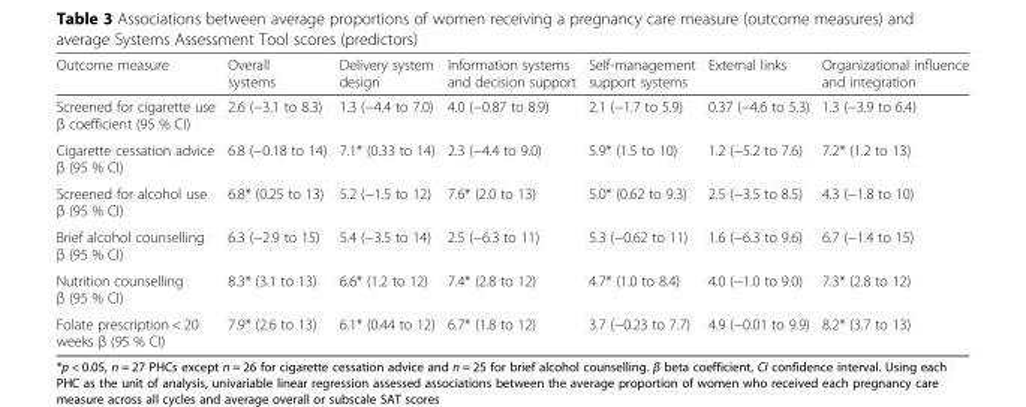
<table><thead><tr><td>Outcome measure</td><td>Overall systems</td><td>Delivery system design</td><td>Information systems and decision support</td><td>Self-management support systems</td><td>External links</td><td>Organizational influence and integration</td></tr></thead><tbody><tr><td>Screened for cigarette use β coefficient (95 % CI)</td><td>2.6 (−3.1 to 8.3)</td><td>1.3 (−4.4 to 7.0)</td><td>4.0 (−0.87 to 8.9)</td><td>2.1 (−1.7 to 5.9)</td><td>0.37 (−4.6 to 5.3)</td><td>1.3 (−3.9 to 6.4)</td></tr><tr><td>Cigarette cessation advice β (95 % CI)</td><td>6.8 (−0.18 to 14)</td><td>7.1* (0.33 to 14)</td><td>2.3 (−4.4 to 9.0)</td><td>5.9* (1.5 to 10)</td><td>1.2 (−5.2 to 7.6)</td><td>7.2* (1.2 to 13)</td></tr><tr><td>Screened for alcohol use β (95 % CI)</td><td>6.8* (0.25 to 13)</td><td>5.2 (−1.5 to 12)</td><td>7.6* (2.0 to 13)</td><td>5.0* (0.62 to 9.3)</td><td>2.5 (−3.5 to 8.5)</td><td>4.3 (−1.8 to 10)</td></tr><tr><td>Brief alcohol counselling β (95 % CI)</td><td>6.3 (−2.9 to 15)</td><td>5.4 (−3.5 to 14)</td><td>2.5 (−6.3 to 11)</td><td>5.3 (−0.62 to 11)</td><td>1.6 (−6.3 to 9.6)</td><td>6.7 (−1.4 to 15)</td></tr><tr><td>Nutrition counselling β (95 % CI)</td><td>8.3* (3.1 to 13)</td><td>6.6* (1.2 to 12)</td><td>7.4* (2.8 to 12)</td><td>4.7* (1.0 to 8.4)</td><td>4.0 (−1.0 to 9.0)</td><td>7.3* (2.8 to 12)</td></tr><tr><td>Folate prescription &lt; 20 weeks β (95 % CI)</td><td>7.9* (2.6 to 13)</td><td>6.1* (0.44 to 12)</td><td>6.7* (1.8 to 12)</td><td>3.7 (−0.23 to 7.7)</td><td>4.9 (−0.01 to 9.9)</td><td>8.2* (3.7 to 13)</td></tr></tbody></table>